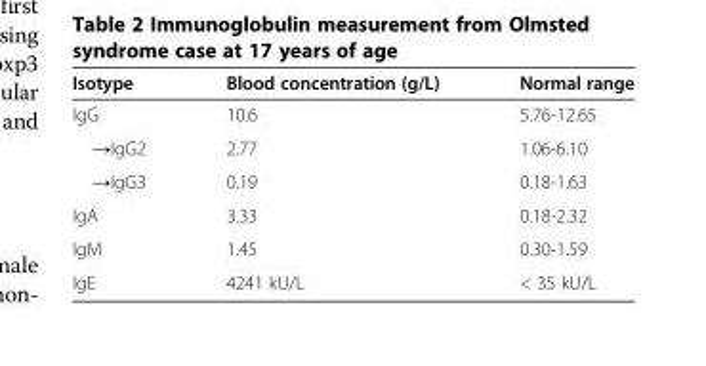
<table><thead><tr><td>Isotype</td><td>Blood concentration (g/L)</td><td>Normal range</td></tr></thead><tbody><tr><td>IgG</td><td>10.6</td><td>5.76-12.65</td></tr><tr><td>→IgG2</td><td>2.77</td><td>1.06-6.10</td></tr><tr><td>→IgG3</td><td>0.19</td><td>0.18-1.63</td></tr><tr><td>IgA</td><td>3.33</td><td>0.18-2.32</td></tr><tr><td>IgM</td><td>1.45</td><td>0.30-1.59</td></tr><tr><td>IgE</td><td>4241 kU/L</td><td>&lt; 35 kU/L</td></tr></tbody></table>